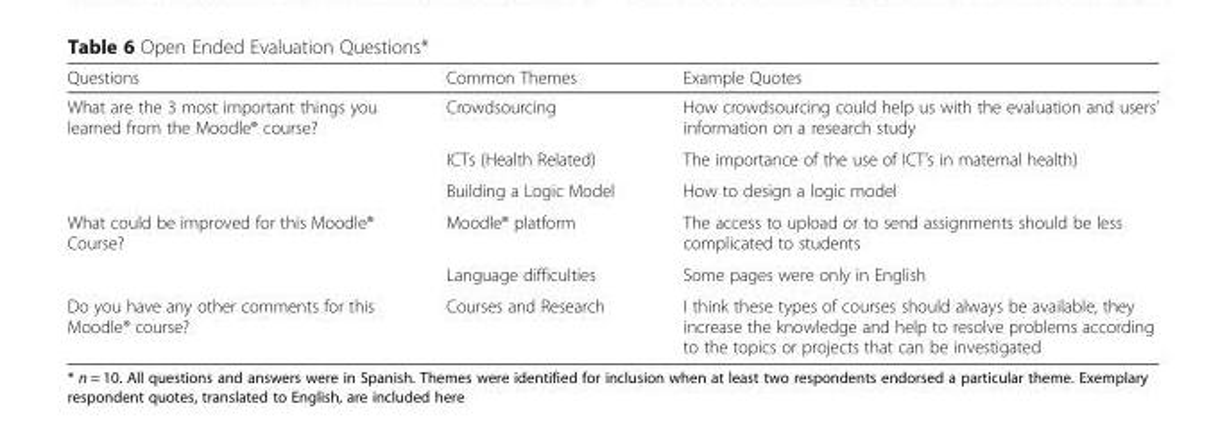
<table><thead><tr><td>Questions</td><td>Common Themes</td><td>Example Quotes</td></tr></thead><tbody><tr><td rowspan="3">What are the 3 most important things you learned from the Moodle® course?</td><td>Crowdsourcing</td><td>How crowdsourcing could help us with the evaluation and users’ information on a research study</td></tr><tr><td>ICTs (Health Related)</td><td>The importance of the use of ICT’s in maternal health)</td></tr><tr><td>Building a Logic Model</td><td>How to design a logic model</td></tr><tr><td rowspan="2">What could be improved for this Moodle® Course?</td><td>Moodle® platform</td><td>The access to upload or to send assignments should be less complicated to students</td></tr><tr><td>Language difficulties</td><td>Some pages were only in English</td></tr><tr><td>Do you have any other comments for this Moodle® course?</td><td>Courses and Research</td><td>I think these types of courses should always be available, they increase the knowledge and help to resolve problems according to the topics or projects that can be investigated</td></tr></tbody></table>